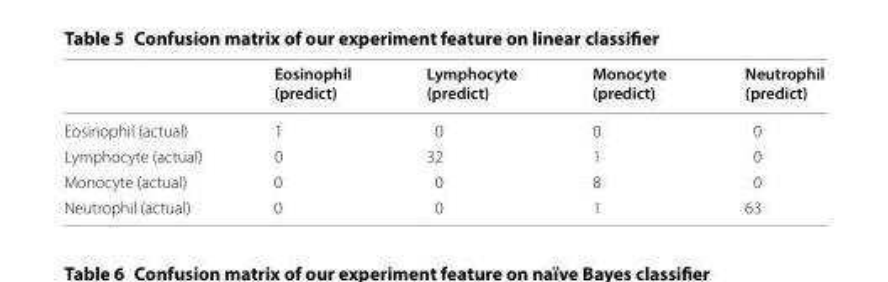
<table><thead><tr><td></td><td>Eosinophil (predict)</td><td>Lymphocyte (predict)</td><td>Monocyte (predict)</td><td>Neutrophil (predict)</td></tr></thead><tbody><tr><td>Eosinophil (actual)</td><td>1</td><td>0</td><td>0</td><td>0</td></tr><tr><td>Lymphocyte (actual)</td><td>0</td><td>32</td><td>1</td><td>0</td></tr><tr><td>Monocyte (actual)</td><td>0</td><td>0</td><td>8</td><td>0</td></tr><tr><td>Neutrophil (actual)</td><td>0</td><td>0</td><td>1</td><td>63</td></tr></tbody></table>